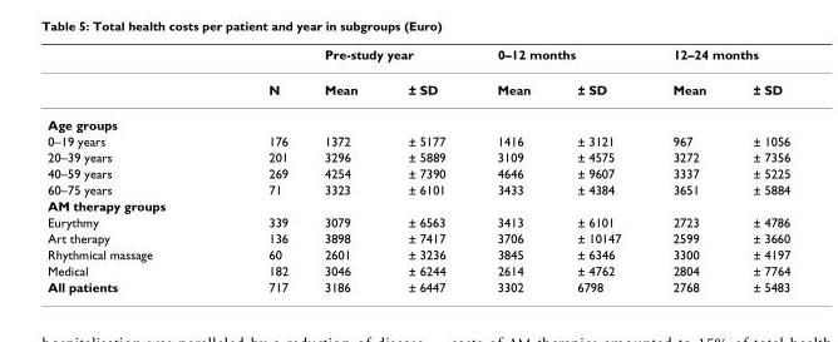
<table><thead><tr><td rowspan="2"></td><td rowspan="2">N</td><td colspan="2">Pre-study year</td><td colspan="2">0–12 months</td><td colspan="2">12–24 months</td></tr><tr><td>Mean</td><td>± SD</td><td>Mean</td><td>± SD</td><td>Mean</td><td>± SD</td></tr></thead><tbody><tr><td colspan="8">Age groups</td></tr><tr><td>0–19 years</td><td>176</td><td>1372</td><td>± 5177</td><td>1416</td><td>± 3121</td><td>967</td><td>± 1056</td></tr><tr><td>20–39 years</td><td>201</td><td>3296</td><td>± 5889</td><td>3109</td><td>± 4575</td><td>3272</td><td>± 7356</td></tr><tr><td>40–59 years</td><td>269</td><td>4254</td><td>± 7390</td><td>4646</td><td>± 9607</td><td>3337</td><td>± 5225</td></tr><tr><td>60–75 years</td><td>71</td><td>3323</td><td>± 6101</td><td>3433</td><td>± 4384</td><td>3651</td><td>± 5884</td></tr><tr><td colspan="8">AM therapy groups</td></tr><tr><td>Eurythmy</td><td>339</td><td>3079</td><td>± 6563</td><td>3413</td><td>± 6101</td><td>2723</td><td>± 4786</td></tr><tr><td>Art therapy</td><td>136</td><td>3898</td><td>± 7417</td><td>3706</td><td>± 10147</td><td>2599</td><td>± 3660</td></tr><tr><td>Rhythmical massage</td><td>60</td><td>2601</td><td>± 3236</td><td>3845</td><td>± 6346</td><td>3300</td><td>± 4197</td></tr><tr><td>Medical</td><td>182</td><td>3046</td><td>± 6244</td><td>2614</td><td>± 4762</td><td>2804</td><td>± 7764</td></tr><tr><td>All patients</td><td>717</td><td>3186</td><td>± 6447</td><td>3302</td><td>6798</td><td>2768</td><td>± 5483</td></tr></tbody></table>